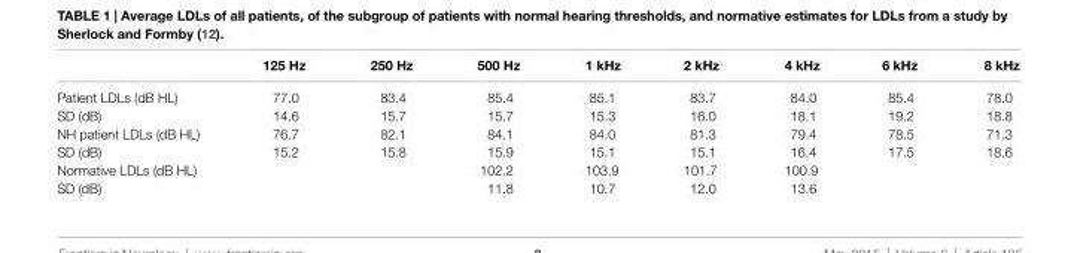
<table><thead><tr><td></td><td>125 hz</td><td>250 hz</td><td>500 hz</td><td>1 khz</td><td>2 khz</td><td>4 khz</td><td>6 khz</td><td>8 khz</td></tr></thead><tbody><tr><td>Patient LDLs (dB HL)</td><td>77.0</td><td>83.4</td><td>85.4</td><td>85.1</td><td>83.7</td><td>84.0</td><td>85.4</td><td>78.0</td></tr><tr><td>SD (dB)</td><td>14.6</td><td>15.7</td><td>15.7</td><td>15.3</td><td>16.0</td><td>18.1</td><td>19.2</td><td>18.8</td></tr><tr><td>NH patient LDLs (dB HL)</td><td>76.7</td><td>82.1</td><td>84.1</td><td>84.0</td><td>81.3</td><td>79.4</td><td>78.5</td><td>71.3</td></tr><tr><td>SD (dB)</td><td>15.2</td><td>15.8</td><td>15.9</td><td>15.1</td><td>15.1</td><td>16.4</td><td>17.5</td><td>18.6</td></tr><tr><td>Normative LDLs (dB HL)</td><td></td><td></td><td>102.2</td><td>103.9</td><td>101.7</td><td>100.9</td><td></td><td></td></tr><tr><td>SD (dB)</td><td></td><td></td><td>11.8</td><td>10.7</td><td>12.0</td><td>13.6</td><td></td><td></td></tr></tbody></table>